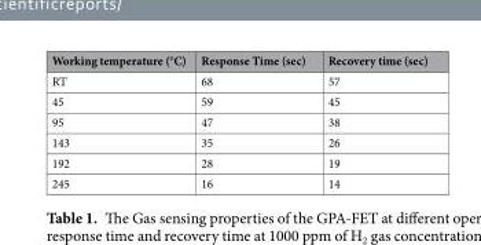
<table><thead><tr><td>Working temperature (°C)</td><td>Response Time (sec)</td><td>Recovery time (sec)</td></tr></thead><tbody><tr><td>RT</td><td>68</td><td>57</td></tr><tr><td>45</td><td>59</td><td>45</td></tr><tr><td>95</td><td>47</td><td>38</td></tr><tr><td>143</td><td>35</td><td>26</td></tr><tr><td>192</td><td>28</td><td>19</td></tr><tr><td>245</td><td>16</td><td>14</td></tr></tbody></table>